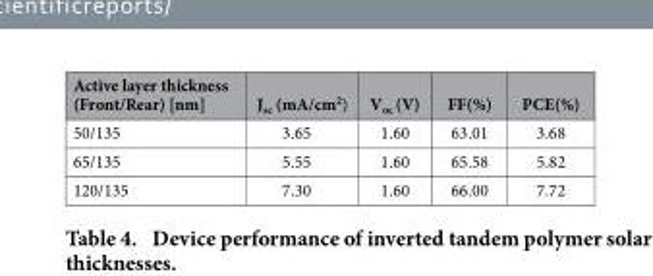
<table><thead><tr><td>Active layer thickness (Front/Rear) [nm]</td><td>J<sub>sc</sub> (mA/cm<sup>2</sup>)</td><td>V<sub>oc</sub> (V)</td><td>FF(%)</td><td>PCE(%)</td></tr></thead><tbody><tr><td>50/135</td><td>3.65</td><td>1.60</td><td>63.01</td><td>3.68</td></tr><tr><td>65/135</td><td>5.55</td><td>1.60</td><td>65.58</td><td>5.82</td></tr><tr><td>120/135</td><td>7.30</td><td>1.60</td><td>66.00</td><td>7.72</td></tr></tbody></table>